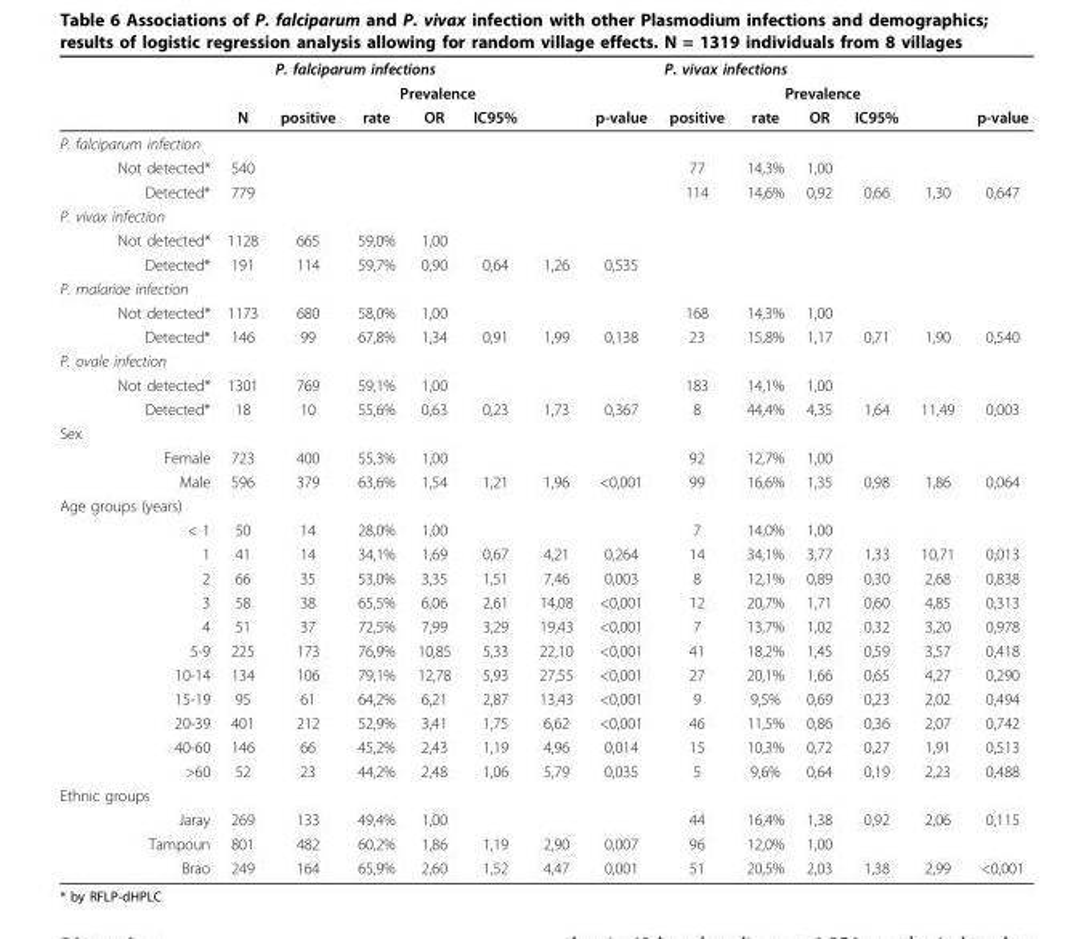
<table><thead><tr><td rowspan="3"></td><td rowspan="3">N</td><td colspan="6">P. falciparum infections</td><td colspan="6">P. vivax infections</td></tr><tr><td rowspan="2">positive</td><td colspan="3">Prevalence</td><td rowspan="2"></td><td rowspan="2">p-value</td><td rowspan="2">positive</td><td colspan="3">Prevalence</td><td rowspan="2"></td><td rowspan="2">p-value</td></tr><tr><td>rate</td><td>OR</td><td>IC95%</td><td>rate</td><td>OR</td><td>IC95%</td></tr></thead><tbody><tr><td colspan="14">P. falciparum infection</td></tr><tr><td>Not detected*</td><td>540</td><td></td><td></td><td></td><td></td><td></td><td></td><td>77</td><td>14,3%</td><td>1,00</td><td></td><td></td><td></td></tr><tr><td>Detected*</td><td>779</td><td></td><td></td><td></td><td></td><td></td><td></td><td>114</td><td>14,6%</td><td>0,92</td><td>0,66</td><td>1,30</td><td>0,647</td></tr><tr><td colspan="14">P. vivax infection</td></tr><tr><td>Not detected*</td><td>1128</td><td>665</td><td>59,0%</td><td>1,00</td><td></td><td></td><td></td><td></td><td></td><td></td><td></td><td></td><td></td></tr><tr><td>Detected*</td><td>191</td><td>114</td><td>59,7%</td><td>0,90</td><td>0,64</td><td>1,26</td><td>0,535</td><td></td><td></td><td></td><td></td><td></td><td></td></tr><tr><td colspan="14">P. malariae infection</td></tr><tr><td>Not detected*</td><td>1173</td><td>680</td><td>58,0%</td><td>1,00</td><td></td><td></td><td></td><td>168</td><td>14,3%</td><td>1,00</td><td></td><td></td><td></td></tr><tr><td>Detected*</td><td>146</td><td>99</td><td>67,8%</td><td>1,34</td><td>0,91</td><td>1,99</td><td>0,138</td><td>23</td><td>15,8%</td><td>1,17</td><td>0,71</td><td>1,90</td><td>0,540</td></tr><tr><td colspan="14">P. ovale infection</td></tr><tr><td>Not detected*</td><td>1301</td><td>769</td><td>59,1%</td><td>1,00</td><td></td><td></td><td></td><td>183</td><td>14,1%</td><td>1,00</td><td></td><td></td><td></td></tr><tr><td>Detected*</td><td>18</td><td>10</td><td>55,6%</td><td>0,63</td><td>0,23</td><td>1,73</td><td>0,367</td><td>8</td><td>44,4%</td><td>4,35</td><td>1,64</td><td>11,49</td><td>0,003</td></tr><tr><td colspan="14">Sex</td></tr><tr><td>Female</td><td>723</td><td>400</td><td>55,3%</td><td>1,00</td><td></td><td></td><td></td><td>92</td><td>12,7%</td><td>1,00</td><td></td><td></td><td></td></tr><tr><td>Male</td><td>596</td><td>379</td><td>63,6%</td><td>1,54</td><td>1,21</td><td>1,96</td><td>&lt;0,001</td><td>99</td><td>16,6%</td><td>1,35</td><td>0,98</td><td>1,86</td><td>0,064</td></tr><tr><td colspan="14">Age groups (years)</td></tr><tr><td>&lt; 1</td><td>50</td><td>14</td><td>28,0%</td><td>1,00</td><td></td><td></td><td></td><td>7</td><td>14,0%</td><td>1,00</td><td></td><td></td><td></td></tr><tr><td>1</td><td>41</td><td>14</td><td>34,1%</td><td>1,69</td><td>0,67</td><td>4,21</td><td>0,264</td><td>14</td><td>34,1%</td><td>3,77</td><td>1,33</td><td>10,71</td><td>0,013</td></tr><tr><td>2</td><td>66</td><td>35</td><td>53,0%</td><td>3,35</td><td>1,51</td><td>7,46</td><td>0,003</td><td>8</td><td>12,1%</td><td>0,89</td><td>0,30</td><td>2,68</td><td>0,838</td></tr><tr><td>3</td><td>58</td><td>38</td><td>65,5%</td><td>6,06</td><td>2,61</td><td>14,08</td><td>&lt;0,001</td><td>12</td><td>20,7%</td><td>1,71</td><td>0,60</td><td>4,85</td><td>0,313</td></tr><tr><td>4</td><td>51</td><td>37</td><td>72,5%</td><td>7,99</td><td>3,29</td><td>19,43</td><td>&lt;0,001</td><td>7</td><td>13,7%</td><td>1,02</td><td>0,32</td><td>3,20</td><td>0,978</td></tr><tr><td>5-9</td><td>225</td><td>173</td><td>76,9%</td><td>10,85</td><td>5,33</td><td>22,10</td><td>&lt;0,001</td><td>41</td><td>18,2%</td><td>1,45</td><td>0,59</td><td>3,57</td><td>0,418</td></tr><tr><td>10-14</td><td>134</td><td>106</td><td>79,1%</td><td>12,78</td><td>5,93</td><td>27,55</td><td>&lt;0,001</td><td>27</td><td>20,1%</td><td>1,66</td><td>0,65</td><td>4,27</td><td>0,290</td></tr><tr><td>15-19</td><td>95</td><td>61</td><td>64,2%</td><td>6,21</td><td>2,87</td><td>13,43</td><td>&lt;0,001</td><td>9</td><td>9,5%</td><td>0,69</td><td>0,23</td><td>2,02</td><td>0,494</td></tr><tr><td>20-39</td><td>401</td><td>212</td><td>52,9%</td><td>3,41</td><td>1,75</td><td>6,62</td><td>&lt;0,001</td><td>46</td><td>11,5%</td><td>0,86</td><td>0,36</td><td>2,07</td><td>0,742</td></tr><tr><td>40-60</td><td>146</td><td>66</td><td>45,2%</td><td>2,43</td><td>1,19</td><td>4,96</td><td>0,014</td><td>15</td><td>10,3%</td><td>0,72</td><td>0,27</td><td>1,91</td><td>0,513</td></tr><tr><td>&gt;60</td><td>52</td><td>23</td><td>44,2%</td><td>2,48</td><td>1,06</td><td>5,79</td><td>0,035</td><td>5</td><td>9,6%</td><td>0,64</td><td>0,19</td><td>2,23</td><td>0,488</td></tr><tr><td colspan="14">Ethnic groups</td></tr><tr><td>Jaray</td><td>269</td><td>133</td><td>49,4%</td><td>1,00</td><td></td><td></td><td></td><td>44</td><td>16,4%</td><td>1,38</td><td>0,92</td><td>2,06</td><td>0,115</td></tr><tr><td>Tampoun</td><td>801</td><td>482</td><td>60,2%</td><td>1,86</td><td>1,19</td><td>2,90</td><td>0,007</td><td>96</td><td>12,0%</td><td>1,00</td><td></td><td></td><td></td></tr><tr><td>Brao</td><td>249</td><td>164</td><td>65,9%</td><td>2,60</td><td>1,52</td><td>4,47</td><td>0,001</td><td>51</td><td>20,5%</td><td>2,03</td><td>1,38</td><td>2,99</td><td>&lt;0,001</td></tr></tbody></table>